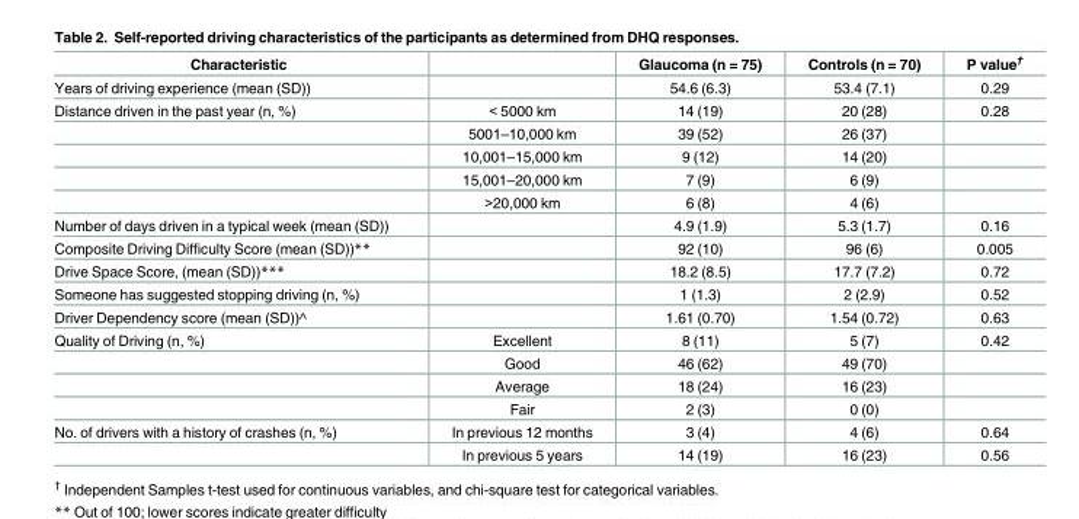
<table><thead><tr><td>Characteristic</td><td></td><td>Glaucoma (n = 75)</td><td>Controls (n = 70)</td><td>P value<sup>†</sup></td></tr></thead><tbody><tr><td>Years of driving experience (mean (SD))</td><td></td><td>54.6 (6.3)</td><td>53.4 (7.1)</td><td>0.29</td></tr><tr><td rowspan="5">Distance driven in the past year (n, %)</td><td>&lt; 5000 km</td><td>14 (19)</td><td>20 (28)</td><td>0.28</td></tr><tr><td>5001–10,000 km</td><td>39 (52)</td><td>26 (37)</td><td></td></tr><tr><td>10,001–15,000 km</td><td>9 (12)</td><td>14 (20)</td><td></td></tr><tr><td>15,001–20,000 km</td><td>7 (9)</td><td>6 (9)</td><td></td></tr><tr><td>&gt;20,000 km</td><td>6 (8)</td><td>4 (6)</td><td></td></tr><tr><td>Number of days driven in a typical week (mean (SD))</td><td></td><td>4.9 (1.9)</td><td>5.3 (1.7)</td><td>0.16</td></tr><tr><td>Composite Driving Difficulty Score (mean (SD))**</td><td></td><td>92 (10)</td><td>96 (6)</td><td>0.005</td></tr><tr><td>Drive Space Score, (mean (SD))***</td><td></td><td>18.2 (8.5)</td><td>17.7 (7.2)</td><td>0.72</td></tr><tr><td>Someone has suggested stopping driving (n, %)</td><td></td><td>1 (1.3)</td><td>2 (2.9)</td><td>0.52</td></tr><tr><td>Driver Dependency score (mean (SD))^</td><td></td><td>1.61 (0.70)</td><td>1.54 (0.72)</td><td>0.63</td></tr><tr><td rowspan="4">Quality of Driving (n, %)</td><td>Excellent</td><td>8 (11)</td><td>5 (7)</td><td>0.42</td></tr><tr><td>Good</td><td>46 (62)</td><td>49 (70)</td><td></td></tr><tr><td>Average</td><td>18 (24)</td><td>16 (23)</td><td></td></tr><tr><td>Fair</td><td>2 (3)</td><td>0 (0)</td><td></td></tr><tr><td rowspan="2">No. of drivers with a history of crashes (n, %)</td><td>In previous 12 months</td><td>3 (4)</td><td>4 (6)</td><td>0.64</td></tr><tr><td>In previous 5 years</td><td>14 (19)</td><td>16 (23)</td><td>0.56</td></tr></tbody></table>